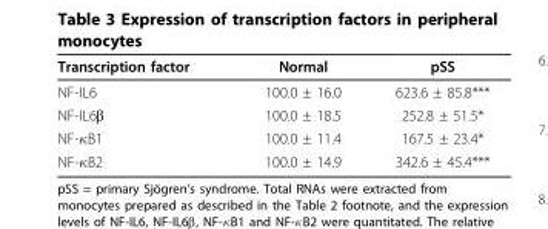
<table><thead><tr><td>Transcription factor</td><td>Normal</td><td>pSS</td></tr></thead><tbody><tr><td>NF-IL6</td><td>100.0 ± 16.0</td><td>623.6 ± 85.8***</td></tr><tr><td>NF-IL6β</td><td>100.0 ± 18.5</td><td>252.8 ± 51.5*</td></tr><tr><td>NF-κB1</td><td>100.0 ± 11.4</td><td>167.5 ± 23.4*</td></tr><tr><td>NF-κB2</td><td>100.0 ± 14.9</td><td>342.6 ± 45.4***</td></tr></tbody></table>